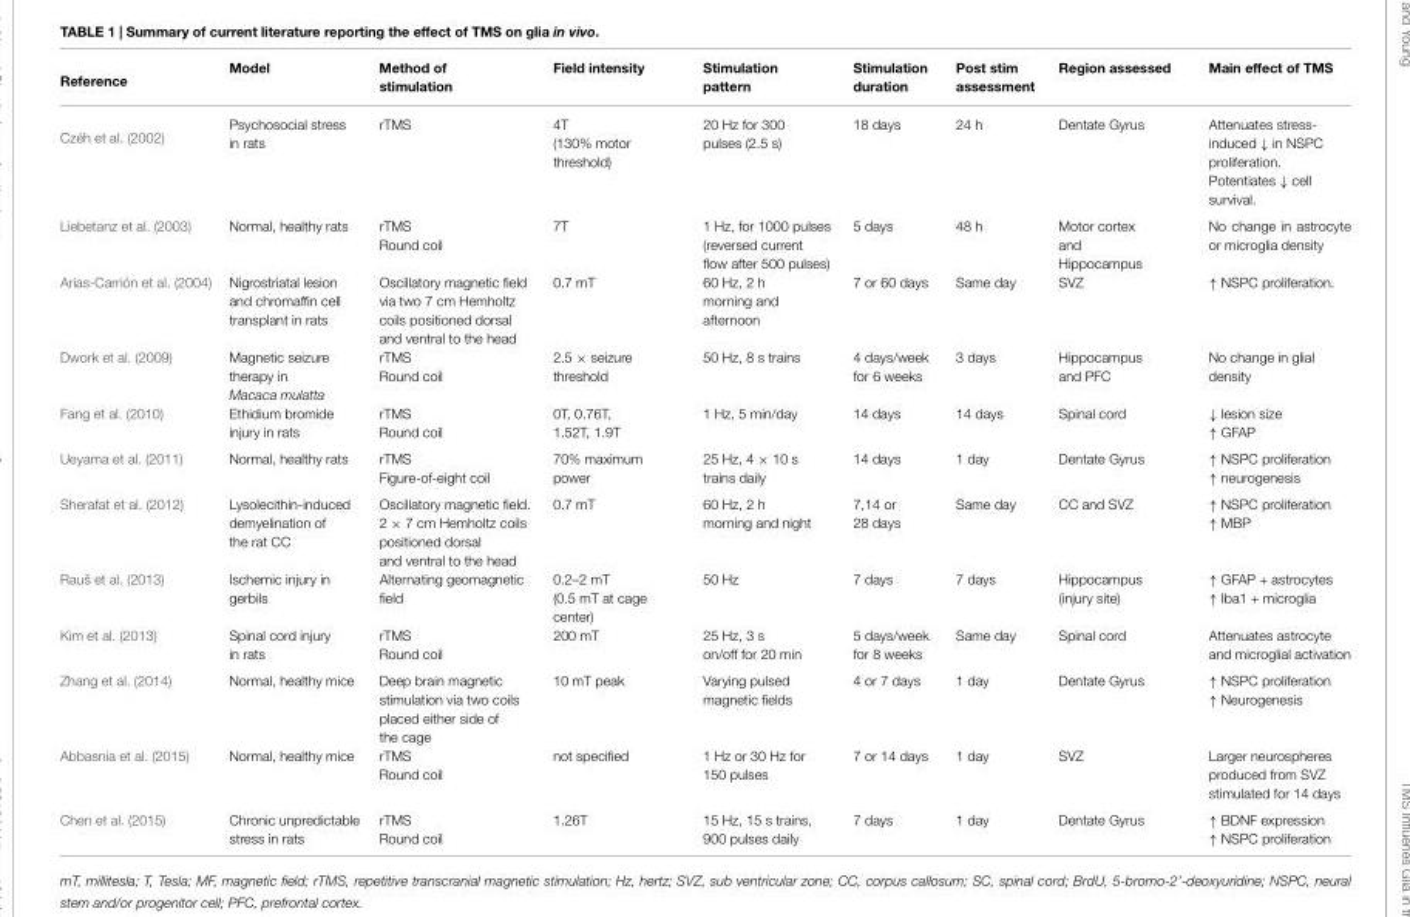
<table><thead><tr><td>Reference</td><td>Model</td><td>Method of stimulation</td><td>Field intensity</td><td>Stimulation pattern</td><td>Stimulation duration</td><td>Post stim assessment</td><td>Region assessed</td><td>Main effect of TMS</td></tr></thead><tbody><tr><td>Czéh et al. (2002)</td><td>Psychosocial stress in rats</td><td>rTMS</td><td>4T (130% motor threshold)</td><td>20 Hz for 300 pulses (2.5 s)</td><td>18 days</td><td>24 h</td><td>Dentate Gyrus</td><td>Attenuates stress- induced ↓ in NSPC proliferation. Potentiates ↓ cell survival.</td></tr><tr><td>Liebetanz et al. (2003)</td><td>Normal, healthy rats</td><td>rTMS Round coil</td><td>7T</td><td>1 Hz, for 1000 pulses (reversed current flow after 500 pulses)</td><td>5 days</td><td>48 h</td><td>Motor cortex and Hippocampus</td><td>No change in astrocyte or microglia density</td></tr><tr><td>Arias-Carrión et al. (2004)</td><td>Nigrostriatal lesion and chromaffin cell transplant in rats</td><td>Oscillatory magnetic field via two 7 cm Hemholtz coils positioned dorsal and ventral to the head</td><td>0.7 mT</td><td>60 Hz, 2 h morning and afternoon</td><td>7 or 60 days</td><td>Same day</td><td>SVZ</td><td>↑ NSPC proliferation.</td></tr><tr><td>Dwork et al. (2009)</td><td>Magnetic seizure therapy in Macaca mulatta</td><td>rTMS Round coil</td><td>2.5 × seizure threshold</td><td>50 Hz, 8 s trains</td><td>4 days/week for 6 weeks</td><td>3 days</td><td>Hippocampus and PFC</td><td>No change in glial density</td></tr><tr><td>Fang et al. (2010)</td><td>Ethidium bromide injury in rats</td><td>rTMS Round coil</td><td>0T, 0.76T, 1.52T, 1.9T</td><td>1 Hz, 5 min/day</td><td>14 days</td><td>14 days</td><td>Spinal cord</td><td>↓ lesion size ↑ GFAP</td></tr><tr><td>Ueyama et al. (2011)</td><td>Normal, healthy rats</td><td>rTMS Figure-of-eight coil</td><td>70% maximum power</td><td>25 Hz, 4 × 10 s trains daily</td><td>14 days</td><td>1 day</td><td>Dentate Gyrus</td><td>↑ NSPC proliferation ↑ neurogenesis</td></tr><tr><td>Sherafat et al. (2012)</td><td>Lysolecithin-induced demyelination of the rat CC</td><td>Oscillatory magnetic field. 2 × 7 cm Hemholtz coils positioned dorsal and ventral to the head</td><td>0.7 mT</td><td>60 Hz, 2 h morning and night</td><td>7,14 or 28 days</td><td>Same day</td><td>CC and SVZ</td><td>↑ NSPC proliferation ↑ MBP</td></tr><tr><td>Rauš et al. (2013)</td><td>Ischemic injury in gerbils</td><td>Alternating geomagnetic field</td><td>0.2–2 mT (0.5 mT at cage center)</td><td>50 Hz</td><td>7 days</td><td>7 days</td><td>Hippocampus (injury site)</td><td>↑ GFAP + astrocytes ↑ Iba1 + microglia</td></tr><tr><td>Kim et al. (2013)</td><td>Spinal cord injury in rats</td><td>rTMS Round coil</td><td>200 mT</td><td>25 Hz, 3 s on/off for 20 min</td><td>5 days/week for 8 weeks</td><td>Same day</td><td>Spinal cord</td><td>Attenuates astrocyte and microglial activation</td></tr><tr><td>Zhang et al. (2014)</td><td>Normal, healthy mice</td><td>Deep brain magnetic stimulation via two coils placed either side of the cage</td><td>10 mT peak</td><td>Varying pulsed magnetic fields</td><td>4 or 7 days</td><td>1 day</td><td>Dentate Gyrus</td><td>↑ NSPC proliferation ↑ Neurogenesis</td></tr><tr><td>Abbasnia et al. (2015)</td><td>Normal, healthy mice</td><td>rTMS Round coil</td><td>not specified</td><td>1 Hz or 30 Hz for 150 pulses</td><td>7 or 14 days</td><td>1 day</td><td>SVZ</td><td>Larger neurospheres produced from SVZ stimulated for 14 days</td></tr><tr><td>Chen et al. (2015)</td><td>Chronic unpredictable stress in rats</td><td>rTMS Round coil</td><td>1.26T</td><td>15 Hz, 15 s trains, 900 pulses daily</td><td>7 days</td><td>1 day</td><td>Dentate Gyrus</td><td>↑ BDNF expression ↑ NSPC proliferation</td></tr></tbody></table>